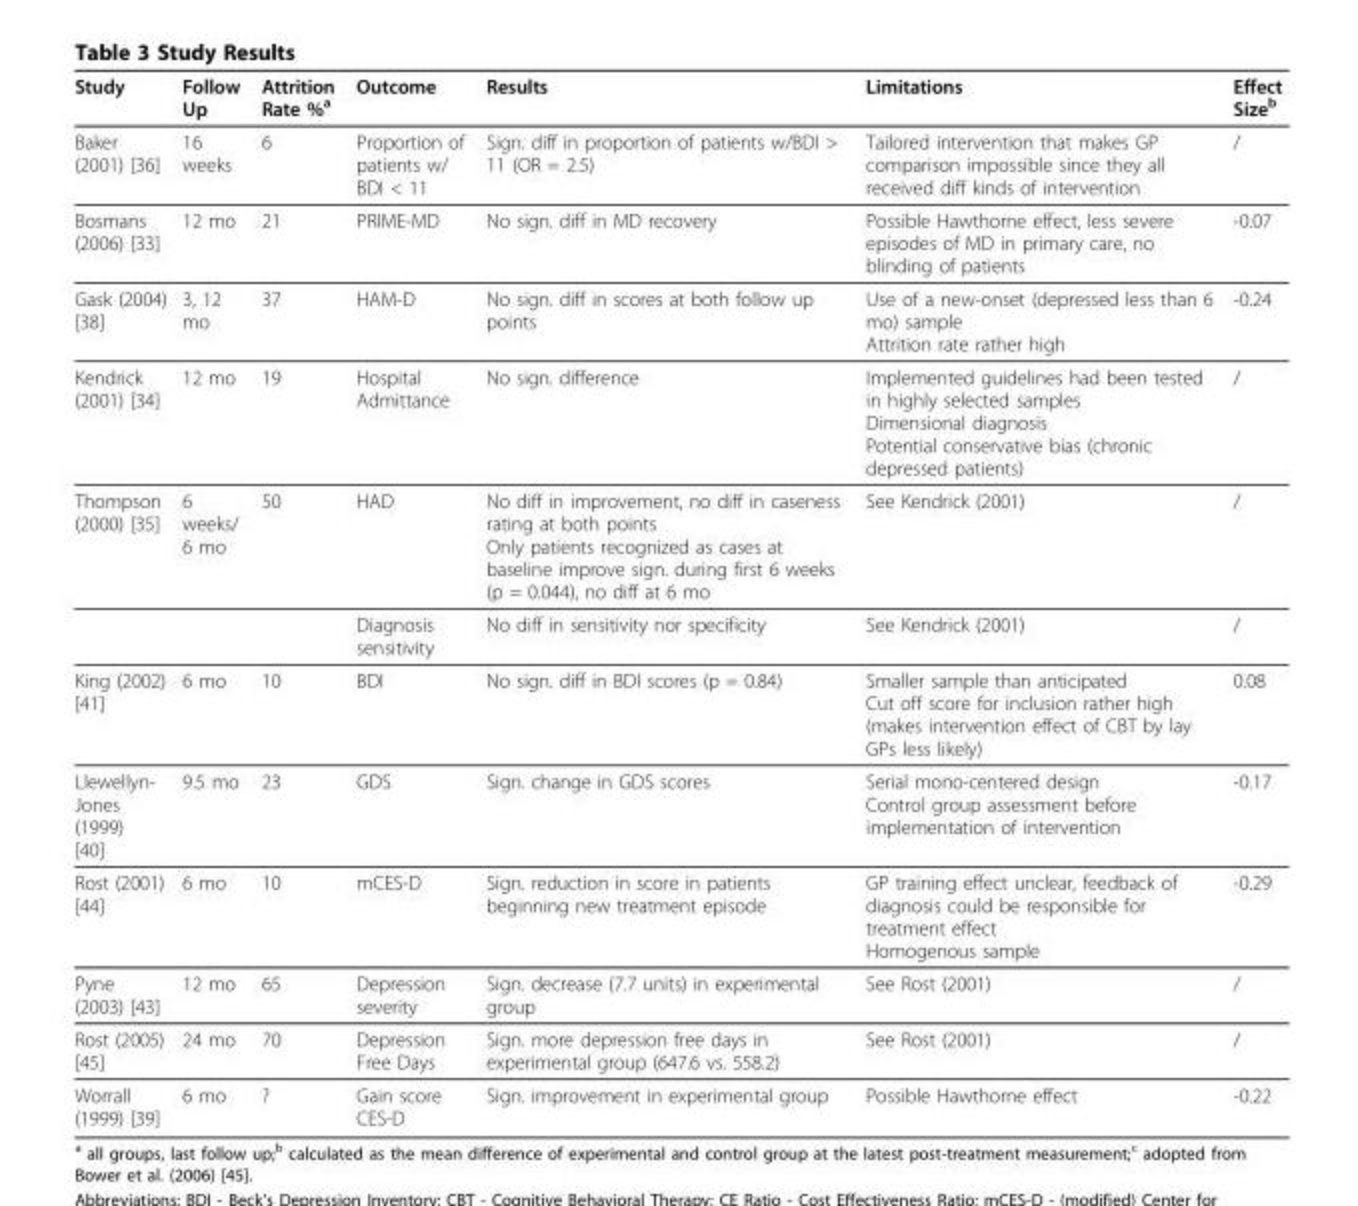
<table><thead><tr><td>Study</td><td>Follow Up</td><td>Attrition Rate %<sup>a</sup></td><td>Outcome</td><td>Results</td><td>Limitations</td><td>Effect Size<sup>b</sup></td></tr></thead><tbody><tr><td>Baker (2001) [36]</td><td>16 weeks</td><td>6</td><td>Proportion of patients w/ BDI &lt; 11</td><td>Sign. diff in proportion of patients w/BDI &gt; 11 (OR = 2.5)</td><td>Tailored intervention that makes GP comparison impossible since they all received diff kinds of intervention</td><td>/</td></tr><tr><td>Bosmans (2006) [33]</td><td>12 mo</td><td>21</td><td>PRIME-MD</td><td>No sign. diff in MD recovery</td><td>Possible Hawthorne effect, less severe episodes of MD in primary care, no blinding of patients</td><td>-0.07</td></tr><tr><td>Gask (2004) [38]</td><td>3, 12 mo</td><td>37</td><td>HAM-D</td><td>No sign. diff in scores at both follow up points</td><td>Use of a new-onset (depressed less than 6 mo) sample Attrition rate rather high</td><td>-0.24</td></tr><tr><td>Kendrick (2001) [34]</td><td>12 mo</td><td>19</td><td>Hospital Admittance</td><td>No sign. difference</td><td>Implemented guidelines had been tested in highly selected samples Dimensional diagnosis Potential conservative bias (chronic depressed patients)</td><td>/</td></tr><tr><td rowspan="2">Thompson (2000) [35]</td><td>6 weeks/ 6 mo</td><td>50</td><td>HAD</td><td>No diff in improvement, no diff in caseness rating at both points Only patients recognized as cases at baseline improve sign. during first 6 weeks (p = 0.044), no diff at 6 mo</td><td>See Kendrick (2001)</td><td>/</td></tr><tr><td></td><td></td><td>Diagnosis sensitivity</td><td>No diff in sensitivity nor specificity</td><td>See Kendrick (2001)</td><td>/</td></tr><tr><td>King (2002) [41]</td><td>6 mo</td><td>10</td><td>BDI</td><td>No sign. diff in BDI scores (p = 0.84)</td><td>Smaller sample than anticipated Cut off score for inclusion rather high (makes intervention effect of CBT by lay GPs less likely)</td><td>0.08</td></tr><tr><td>Llewellyn- Jones (1999) [40]</td><td>9.5 mo</td><td>23</td><td>GDS</td><td>Sign. change in GDS scores</td><td>Serial mono-centered design Control group assessment before implementation of intervention</td><td>-0.17</td></tr><tr><td>Rost (2001) [44]</td><td>6 mo</td><td>10</td><td>mCES-D</td><td>Sign. reduction in score in patients beginning new treatment episode</td><td>GP training effect unclear, feedback of diagnosis could be responsible for treatment effect Homogenous sample</td><td>-0.29</td></tr><tr><td>Pyne (2003) [43]</td><td>12 mo</td><td>65</td><td>Depression severity</td><td>Sign. decrease (7.7 units) in experimental group</td><td>See Rost (2001)</td><td>/</td></tr><tr><td>Rost (2005) [45]</td><td>24 mo</td><td>70</td><td>Depression Free Days</td><td>Sign. more depression free days in experimental group (647.6 vs. 558.2)</td><td>See Rost (2001)</td><td>/</td></tr><tr><td>Worrall (1999) [39]</td><td>6 mo</td><td>?</td><td>Gain score CES-D</td><td>Sign. improvement in experimental group</td><td>Possible Hawthorne effect</td><td>-0.22</td></tr></tbody></table>